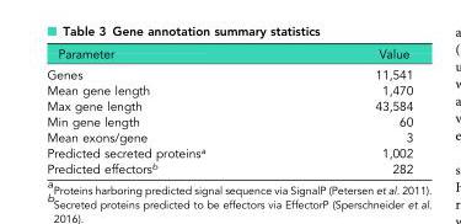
<table><thead><tr><td>Parameter</td><td>Value</td></tr></thead><tbody><tr><td>Genes</td><td>11,541</td></tr><tr><td>Mean gene length</td><td>1,470</td></tr><tr><td>Max gene length</td><td>43,584</td></tr><tr><td>Min gene length</td><td>60</td></tr><tr><td>Mean exons/gene</td><td>3</td></tr><tr><td>Predicted secreted proteins<sup>a</sup></td><td>1,002</td></tr><tr><td>Predicted effectors<sup>b</sup></td><td>282</td></tr></tbody></table>